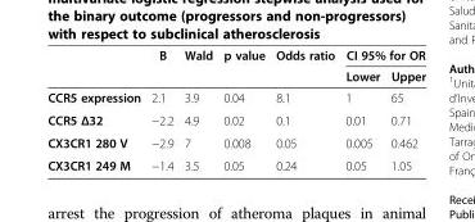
<table><thead><tr><td rowspan="2"></td><td rowspan="2">B</td><td rowspan="2">Wald</td><td rowspan="2">p value</td><td rowspan="2">Odds ratio</td><td colspan="2">CI 95% for OR</td></tr><tr><td>Lower</td><td>Upper</td></tr></thead><tbody><tr><td>CCR5 expression</td><td>2.1</td><td>3.9</td><td>0.04</td><td>8.1</td><td>1</td><td>65</td></tr><tr><td>CCR5 Δ32</td><td>−2.2</td><td>4.9</td><td>0.02</td><td>0.1</td><td>0.01</td><td>0.71</td></tr><tr><td>CX3CR1 280 V</td><td>−2.9</td><td>7</td><td>0.008</td><td>0.05</td><td>0.005</td><td>0.462</td></tr><tr><td>CX3CR1 249 M</td><td>−1.4</td><td>3.5</td><td>0.05</td><td>0.24</td><td>0.05</td><td>1.05</td></tr></tbody></table>